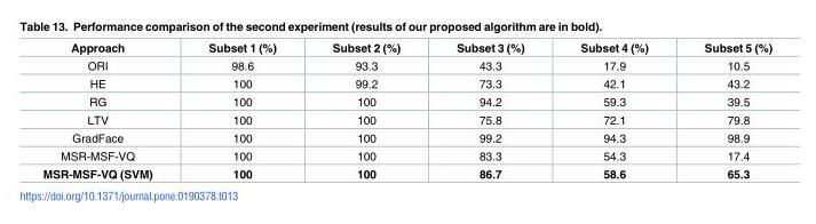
<table><thead><tr><td>Approach</td><td>Subset 1 (%)</td><td>Subset 2 (%)</td><td>Subset 3 (%)</td><td>Subset 4 (%)</td><td>Subset 5 (%)</td></tr></thead><tbody><tr><td>ORI</td><td>98.6</td><td>93.3</td><td>43.3</td><td>17.9</td><td>10.5</td></tr><tr><td>HE</td><td>100</td><td>99.2</td><td>73.3</td><td>42.1</td><td>43.2</td></tr><tr><td>RG</td><td>100</td><td>100</td><td>94.2</td><td>59.3</td><td>39.5</td></tr><tr><td>LTV</td><td>100</td><td>100</td><td>75.8</td><td>72.1</td><td>79.8</td></tr><tr><td>GradFace</td><td>100</td><td>100</td><td>99.2</td><td>94.3</td><td>98.9</td></tr><tr><td>MSR-MSF-VQ</td><td>100</td><td>100</td><td>83.3</td><td>54.3</td><td>17.4</td></tr><tr><td>MSR-MSF-VQ (SVM)</td><td>100</td><td>100</td><td>86.7</td><td>58.6</td><td>65.3</td></tr></tbody></table>